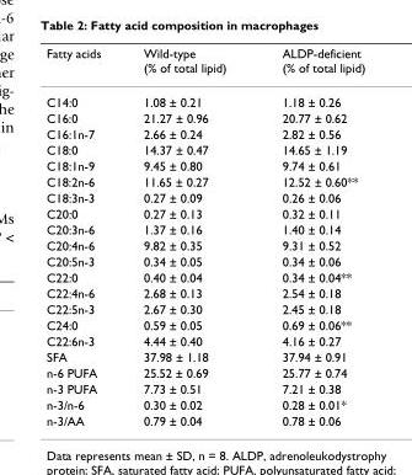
<table><thead><tr><td>Fatty acids</td><td>Wild-type (% of total lipid)</td><td>ALDP-deficient (% of total lipid)</td></tr></thead><tbody><tr><td>C14:0</td><td>1.08 ± 0.21</td><td>1.18 ± 0.26</td></tr><tr><td>C16:0</td><td>21.27 ± 0.96</td><td>20.77 ± 0.62</td></tr><tr><td>C16:1n-7</td><td>2.66 ± 0.24</td><td>2.82 ± 0.56</td></tr><tr><td>C18:0</td><td>14.37 ± 0.47</td><td>14.65 ± 1.19</td></tr><tr><td>C18:1n-9</td><td>9.45 ± 0.80</td><td>9.74 ± 0.61</td></tr><tr><td>C18:2n-6</td><td>11.65 ± 0.27</td><td>12.52 ± 0.60**</td></tr><tr><td>C18:3n-3</td><td>0.27 ± 0.09</td><td>0.26 ± 0.06</td></tr><tr><td>C20:0</td><td>0.27 ± 0.13</td><td>0.32 ± 0.11</td></tr><tr><td>C20:3n-6</td><td>1.37 ± 0.16</td><td>1.40 ± 0.14</td></tr><tr><td>C20:4n-6</td><td>9.82 ± 0.35</td><td>9.31 ± 0.52</td></tr><tr><td>C20:5n-3</td><td>0.34 ± 0.05</td><td>0.34 ± 0.06</td></tr><tr><td>C22:0</td><td>0.40 ± 0.04</td><td>0.34 ± 0.04**</td></tr><tr><td>C22:4n-6</td><td>2.68 ± 0.13</td><td>2.54 ± 0.18</td></tr><tr><td>C22:5n-3</td><td>2.67 ± 0.30</td><td>2.45 ± 0.18</td></tr><tr><td>C24:0</td><td>0.59 ± 0.05</td><td>0.69 ± 0.06**</td></tr><tr><td>C22:6n-3</td><td>4.44 ± 0.40</td><td>4.16 ± 0.27</td></tr><tr><td>SFA</td><td>37.98 ± 1.18</td><td>37.94 ± 0.91</td></tr><tr><td>n-6 PUFA</td><td>25.52 ± 0.69</td><td>25.77 ± 0.74</td></tr><tr><td>n-3 PUFA</td><td>7.73 ± 0.51</td><td>7.21 ± 0.38</td></tr><tr><td>n-3/n-6</td><td>0.30 ± 0.02</td><td>0.28 ± 0.01*</td></tr><tr><td>n-3/AA</td><td>0.79 ± 0.04</td><td>0.78 ± 0.06</td></tr></tbody></table>